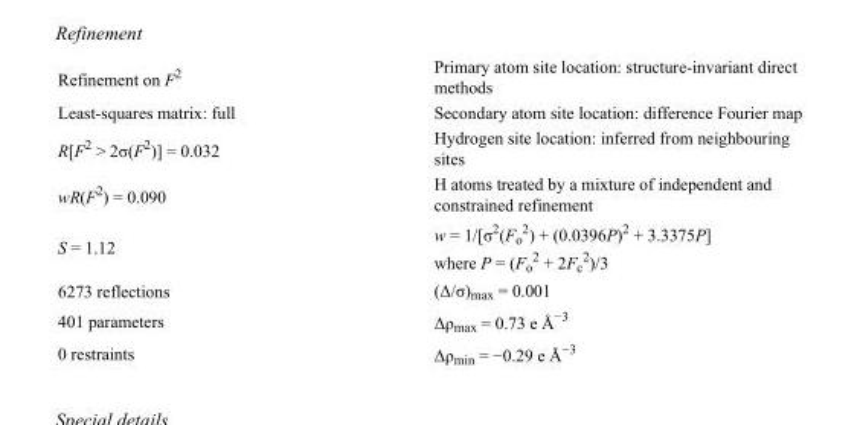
<table><tbody><tr><td>Refinement on F<sup>2</sup></td><td>Primary atom site location: structure-invariant direct methods</td></tr><tr><td>Least-squares matrix: full</td><td>Secondary atom site location: difference Fourier map</td></tr><tr><td>R[F<sup>2</sup> &gt; 2σ(F<sup>2</sup>)] = 0.032</td><td>Hydrogen site location: inferred from neighbouring sites</td></tr><tr><td>wR(F<sup>2</sup>) = 0.090</td><td>H atoms treated by a mixture of independent and constrained refinement</td></tr><tr><td>S = 1.12</td><td>w = 1/[σ<sup>2</sup>(F<sub>o</sub> <sup>2</sup>) + (0.0396P)<sup>2</sup> + 3.3375P] where P = (F<sub>o</sub> <sup>2</sup> + 2F<sub>c</sub> <sup>2</sup>)/3</td></tr><tr><td>6273 reflections</td><td>(Δ/σ)<sub>max</sub> = 0.001</td></tr><tr><td>401 parameters</td><td>Δρ<sub>max</sub> = 0.73 e Å<sup>−3</sup></td></tr><tr><td>0 restraints</td><td>Δρ<sub>min</sub> = −0.29 e Å<sup>−3</sup></td></tr></tbody></table>